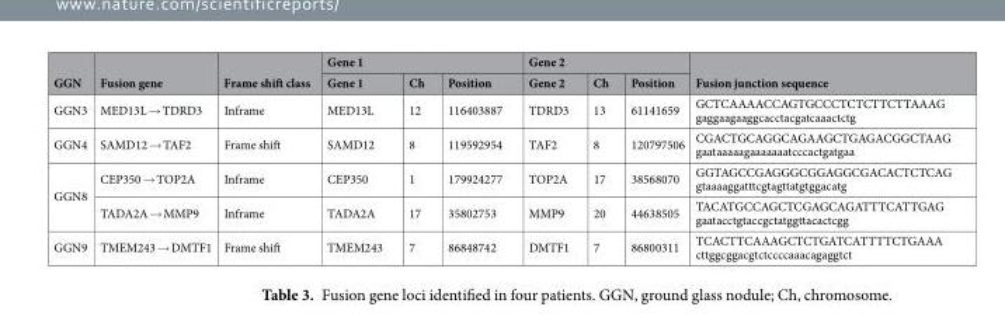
<table><thead><tr><td rowspan="2">GGN</td><td rowspan="2">Fusion gene</td><td rowspan="2">Frame shift class</td><td colspan="3">Gene 1</td><td colspan="3">Gene 2</td><td rowspan="2">Fusion junction sequence</td></tr><tr><td>Gene 1</td><td>Ch</td><td>Position</td><td>Gene 2</td><td>Ch</td><td>Position</td></tr></thead><tbody><tr><td>GGN3</td><td>MED13L → TDRD3</td><td>Inframe</td><td>MED13L</td><td>12</td><td>116403887</td><td>TDRD3</td><td>13</td><td>61141659</td><td>GCTCAAAACCAGTGCCCTCTCTTCTTAAAG gaggaagaaggcacctacgatcaaactctg</td></tr><tr><td>GGN4</td><td>SAMD12 → TAF2</td><td>Frame shift</td><td>SAMD12</td><td>8</td><td>119592954</td><td>TAF2</td><td>8</td><td>120797506</td><td>CGACTGCAGGCAGAAGCTGAGACGGCTAAG gaataaaaagaaaaaaatcccactgatgaa</td></tr><tr><td rowspan="2">GGN8</td><td>CEP350 → TOP2A</td><td>Inframe</td><td>CEP350</td><td>1</td><td>179924277</td><td>TOP2A</td><td>17</td><td>38568070</td><td>GGTAGCCGAGGGCGGAGGCGACACTCTCAG gtaaaaggatttcgtagttatgtggacatg</td></tr><tr><td>TADA2A → MMP9</td><td>Inframe</td><td>TADA2A</td><td>17</td><td>35802753</td><td>MMP9</td><td>20</td><td>44638505</td><td>TACATGCCAGCTCGAGCAGATTTCATTGAG gaatacctgtaccgctatggttacactcgg</td></tr><tr><td>GGN9</td><td>TMEM243 → DMTF1</td><td>Frame shift</td><td>TMEM243</td><td>7</td><td>86848742</td><td>DMTF1</td><td>7</td><td>86800311</td><td>TCACTTCAAAGCTCTGATCATTTTCTGAAA cttggcggacgtctccccaaacagaggtct</td></tr></tbody></table>